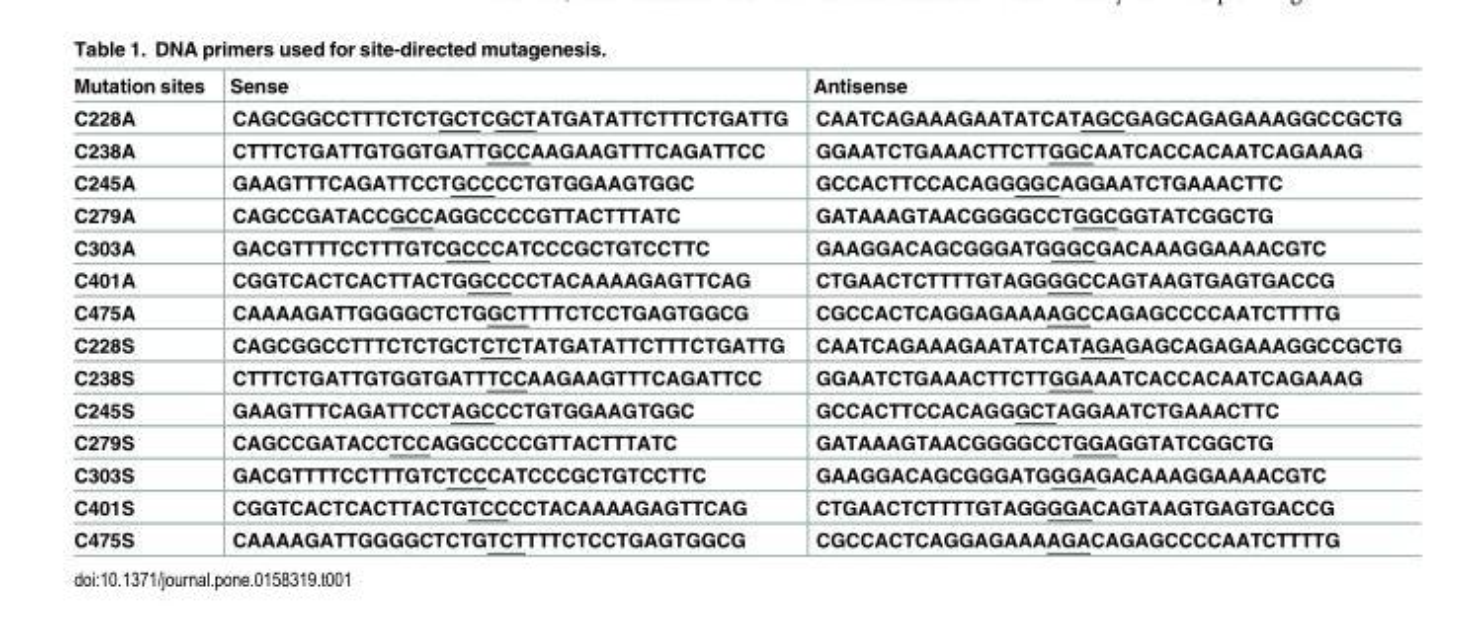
<table><thead><tr><td>Mutation sites</td><td>Sense</td><td>Antisense</td></tr></thead><tbody><tr><td>C228A</td><td>CAGCGGCCTTTCTCTGCTCGCTATGATATTCTTTCTGATTG</td><td>CAATCAGAAAGAATATCATAGCGAGCAGAGAAAGGCCGCTG</td></tr><tr><td>C238A</td><td>CTTTCTGATTGTGGTGATTGCCAAGAAGTTTCAGATTCC</td><td>GGAATCTGAAACTTCTTGGCAATCACCACAATCAGAAAG</td></tr><tr><td>C245A</td><td>GAAGTTTCAGATTCCTGCCCCTGTGGAAGTGGC</td><td>GCCACTTCCACAGGGGCAGGAATCTGAAACTTC</td></tr><tr><td>C279A</td><td>CAGCCGATACCGCCAGGCCCCGTTACTTTATC</td><td>GATAAAGTAACGGGGCCTGGCGGTATCGGCTG</td></tr><tr><td>C303A</td><td>GACGTTTTCCTTTGTCGCCCATCCCGCTGTCCTTC</td><td>GAAGGACAGCGGGATGGGCGACAAAGGAAAACGTC</td></tr><tr><td>C401A</td><td>CGGTCACTCACTTACTGGCCCCTACAAAAGAGTTCAG</td><td>CTGAACTCTTTTGTAGGGGCCAGTAAGTGAGTGACCG</td></tr><tr><td>C475A</td><td>CAAAAGATTGGGGCTCTGGCTTTTCTCCTGAGTGGCG</td><td>CGCCACTCAGGAGAAAAGCCAGAGCCCCAATCTTTTG</td></tr><tr><td>C228S</td><td>CAGCGGCCTTTCTCTGCTCTCTATGATATTCTTTCTGATTG</td><td>CAATCAGAAAGAATATCATAGAGAGCAGAGAAAGGCCGCTG</td></tr><tr><td>C238S</td><td>CTTTCTGATTGTGGTGATTTCCAAGAAGTTTCAGATTCC</td><td>GGAATCTGAAACTTCTTGGAAATCACCACAATCAGAAAG</td></tr><tr><td>C245S</td><td>GAAGTTTCAGATTCCTAGCCCTGTGGAAGTGGC</td><td>GCCACTTCCACAGGGCTAGGAATCTGAAACTTC</td></tr><tr><td>C279S</td><td>CAGCCGATACCTCCAGGCCCCGTTACTTTATC</td><td>GATAAAGTAACGGGGCCTGGAGGTATCGGCTG</td></tr><tr><td>C303S</td><td>GACGTTTTCCTTTGTCTCCCATCCCGCTGTCCTTC</td><td>GAAGGACAGCGGGATGGGAGACAAAGGAAAACGTC</td></tr><tr><td>C401S</td><td>CGGTCACTCACTTACTGTCCCCTACAAAAGAGTTCAG</td><td>CTGAACTCTTTTGTAGGGGACAGTAAGTGAGTGACCG</td></tr><tr><td>C475S</td><td>CAAAAGATTGGGGCTCTGTCTTTTCTCCTGAGTGGCG</td><td>CGCCACTCAGGAGAAAAGACAGAGCCCCAATCTTTTG</td></tr></tbody></table>